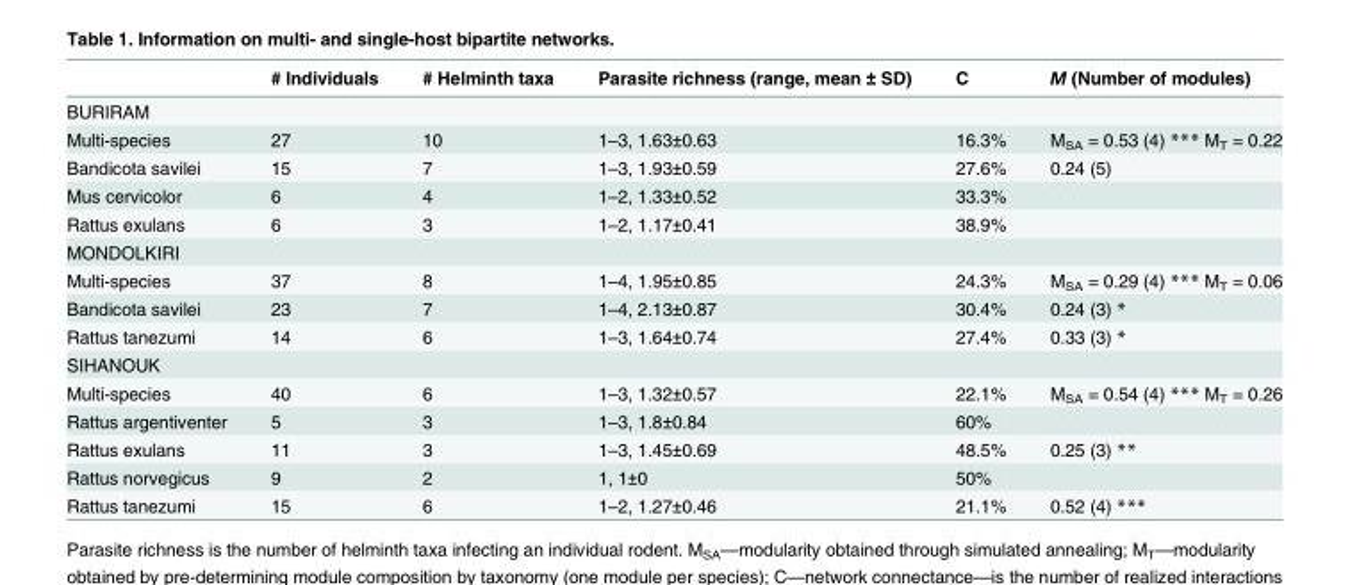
<table><thead><tr><td></td><td># Individuals</td><td># Helminth taxa</td><td>Parasite richness (range, mean ± SD)</td><td>C</td><td>M (Number of modules)</td></tr></thead><tbody><tr><td colspan="6">BURIRAM</td></tr><tr><td>Multi-species</td><td>27</td><td>10</td><td>1–3, 1.63±0.63</td><td>16.3%</td><td>M<sub>SA</sub> = 0.53 (4) *** M<sub>T</sub> = 0.22</td></tr><tr><td>Bandicota savilei</td><td>15</td><td>7</td><td>1–3, 1.93±0.59</td><td>27.6%</td><td>0.24 (5)</td></tr><tr><td>Mus cervicolor</td><td>6</td><td>4</td><td>1–2, 1.33±0.52</td><td>33.3%</td><td></td></tr><tr><td>Rattus exulans</td><td>6</td><td>3</td><td>1–2, 1.17±0.41</td><td>38.9%</td><td></td></tr><tr><td colspan="6">MONDOLKIRI</td></tr><tr><td>Multi-species</td><td>37</td><td>8</td><td>1–4, 1.95±0.85</td><td>24.3%</td><td>M<sub>SA</sub> = 0.29 (4) *** M<sub>T</sub> = 0.06</td></tr><tr><td>Bandicota savilei</td><td>23</td><td>7</td><td>1–4, 2.13±0.87</td><td>30.4%</td><td>0.24 (3) *</td></tr><tr><td>Rattus tanezumi</td><td>14</td><td>6</td><td>1–3, 1.64±0.74</td><td>27.4%</td><td>0.33 (3) *</td></tr><tr><td colspan="6">SIHANOUK</td></tr><tr><td>Multi-species</td><td>40</td><td>6</td><td>1–3, 1.32±0.57</td><td>22.1%</td><td>M<sub>SA</sub> = 0.54 (4) *** M<sub>T</sub> = 0.26</td></tr><tr><td>Rattus argentiventer</td><td>5</td><td>3</td><td>1–3, 1.8±0.84</td><td>60%</td><td></td></tr><tr><td>Rattus exulans</td><td>11</td><td>3</td><td>1–3, 1.45±0.69</td><td>48.5%</td><td>0.25 (3) **</td></tr><tr><td>Rattus norvegicus</td><td>9</td><td>2</td><td>1, 1±0</td><td>50%</td><td></td></tr><tr><td>Rattus tanezumi</td><td>15</td><td>6</td><td>1–2, 1.27±0.46</td><td>21.1%</td><td>0.52 (4) ***</td></tr></tbody></table>